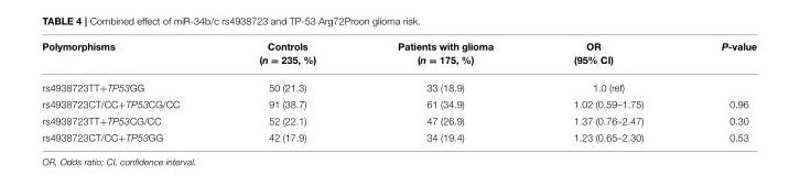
<table><thead><tr><td>Polymorphisms</td><td>Controls (n = 235, %)</td><td>Patients with glioma (n = 175, %)</td><td>OR (95% CI)</td><td>P-value</td></tr></thead><tbody><tr><td>rs4938723TT+TP53GG</td><td>50 (21.3)</td><td>33 (18.9)</td><td>1.0 (ref)</td><td></td></tr><tr><td>rs4938723CT/CC+TP53CG/CC</td><td>91 (38.7)</td><td>61 (34.9)</td><td>1.02 (0.59–1.75)</td><td>0.96</td></tr><tr><td>rs4938723TT+TP53CG/CC</td><td>52 (22.1)</td><td>47 (26.9)</td><td>1.37 (0.76–2.47)</td><td>0.30</td></tr><tr><td>rs4938723CT/CC+TP53GG</td><td>42 (17.9)</td><td>34 (19.4)</td><td>1.23 (0.65–2.30)</td><td>0.53</td></tr></tbody></table>